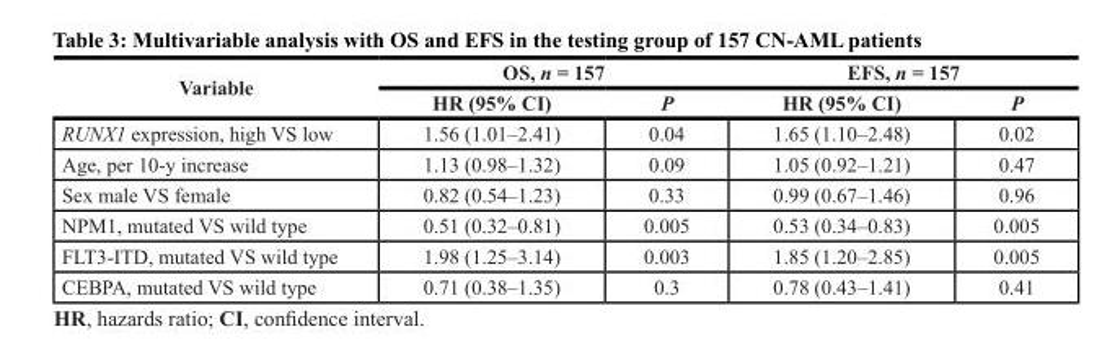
<table><thead><tr><td rowspan="2">Variable</td><td colspan="2">OS, n = 157</td><td colspan="2">EFS, n = 157</td></tr><tr><td>HR (95% CI)</td><td>P</td><td>HR (95% CI)</td><td>P</td></tr></thead><tbody><tr><td>RUNX1 expression, high VS low</td><td>1.56 (1.01–2.41)</td><td>0.04</td><td>1.65 (1.10–2.48)</td><td>0.02</td></tr><tr><td>Age, per 10-y increase</td><td>1.13 (0.98–1.32)</td><td>0.09</td><td>1.05 (0.92–1.21)</td><td>0.47</td></tr><tr><td>Sex male VS female</td><td>0.82 (0.54–1.23)</td><td>0.33</td><td>0.99 (0.67–1.46)</td><td>0.96</td></tr><tr><td>NPM1, mutated VS wild type</td><td>0.51 (0.32–0.81)</td><td>0.005</td><td>0.53 (0.34–0.83)</td><td>0.005</td></tr><tr><td>FLT3-ITD, mutated VS wild type</td><td>1.98 (1.25–3.14)</td><td>0.003</td><td>1.85 (1.20–2.85)</td><td>0.005</td></tr><tr><td>CEBPA, mutated VS wild type</td><td>0.71 (0.38–1.35)</td><td>0.3</td><td>0.78 (0.43–1.41)</td><td>0.41</td></tr></tbody></table>